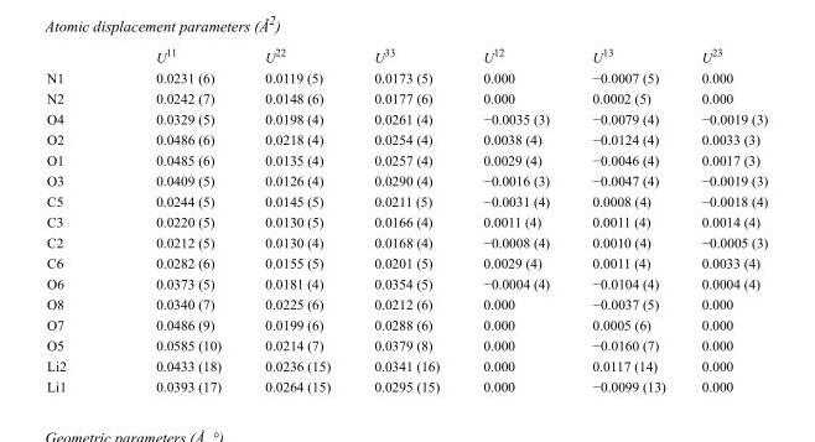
<table><thead><tr><td></td><td>U<sup>11</sup></td><td>U<sup>22</sup></td><td>U<sup>33</sup></td><td>U<sup>12</sup></td><td>U<sup>13</sup></td><td>U<sup>23</sup></td></tr></thead><tbody><tr><td>N1</td><td>0.0231 (6)</td><td>0.0119 (5)</td><td>0.0173 (5)</td><td>0.000</td><td>−0.0007 (5)</td><td>0.000</td></tr><tr><td>N2</td><td>0.0242 (7)</td><td>0.0148 (6)</td><td>0.0177 (6)</td><td>0.000</td><td>0.0002 (5)</td><td>0.000</td></tr><tr><td>O4</td><td>0.0329 (5)</td><td>0.0198 (4)</td><td>0.0261 (4)</td><td>−0.0035 (3)</td><td>−0.0079 (4)</td><td>−0.0019 (3)</td></tr><tr><td>O2</td><td>0.0486 (6)</td><td>0.0218 (4)</td><td>0.0254 (4)</td><td>0.0038 (4)</td><td>−0.0124 (4)</td><td>0.0033 (3)</td></tr><tr><td>O1</td><td>0.0485 (6)</td><td>0.0135 (4)</td><td>0.0257 (4)</td><td>0.0029 (4)</td><td>−0.0046 (4)</td><td>0.0017 (3)</td></tr><tr><td>O3</td><td>0.0409 (5)</td><td>0.0126 (4)</td><td>0.0290 (4)</td><td>−0.0016 (3)</td><td>−0.0047 (4)</td><td>−0.0019 (3)</td></tr><tr><td>C5</td><td>0.0244 (5)</td><td>0.0145 (5)</td><td>0.0211 (5)</td><td>−0.0031 (4)</td><td>0.0008 (4)</td><td>−0.0018 (4)</td></tr><tr><td>C3</td><td>0.0220 (5)</td><td>0.0130 (5)</td><td>0.0166 (4)</td><td>0.0011 (4)</td><td>0.0011 (4)</td><td>0.0014 (4)</td></tr><tr><td>C2</td><td>0.0212 (5)</td><td>0.0130 (4)</td><td>0.0168 (4)</td><td>−0.0008 (4)</td><td>0.0010 (4)</td><td>−0.0005 (3)</td></tr><tr><td>C6</td><td>0.0282 (6)</td><td>0.0155 (5)</td><td>0.0201 (5)</td><td>0.0029 (4)</td><td>0.0011 (4)</td><td>0.0033 (4)</td></tr><tr><td>O6</td><td>0.0373 (5)</td><td>0.0181 (4)</td><td>0.0354 (5)</td><td>−0.0004 (4)</td><td>−0.0104 (4)</td><td>0.0004 (4)</td></tr><tr><td>O8</td><td>0.0340 (7)</td><td>0.0225 (6)</td><td>0.0212 (6)</td><td>0.000</td><td>−0.0037 (5)</td><td>0.000</td></tr><tr><td>O7</td><td>0.0486 (9)</td><td>0.0199 (6)</td><td>0.0288 (6)</td><td>0.000</td><td>0.0005 (6)</td><td>0.000</td></tr><tr><td>O5</td><td>0.0585 (10)</td><td>0.0214 (7)</td><td>0.0379 (8)</td><td>0.000</td><td>−0.0160 (7)</td><td>0.000</td></tr><tr><td>Li2</td><td>0.0433 (18)</td><td>0.0236 (15)</td><td>0.0341 (16)</td><td>0.000</td><td>0.0117 (14)</td><td>0.000</td></tr><tr><td>Li1</td><td>0.0393 (17)</td><td>0.0264 (15)</td><td>0.0295 (15)</td><td>0.000</td><td>−0.0099 (13)</td><td>0.000</td></tr></tbody></table>